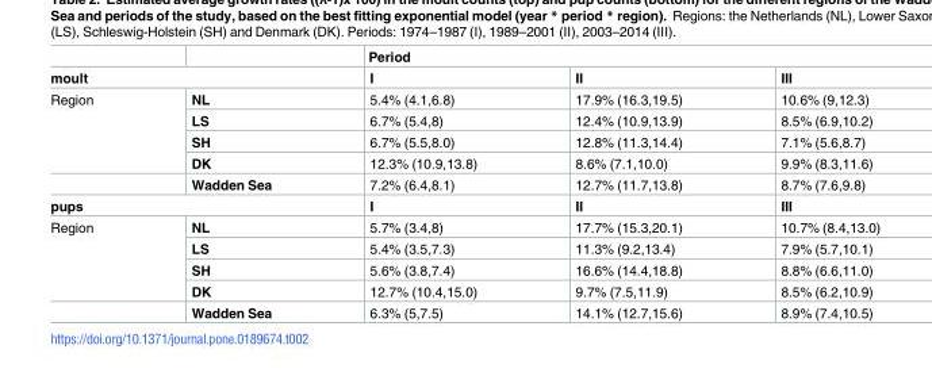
<table><thead><tr><td></td><td></td><td colspan="3">Period</td></tr><tr><td colspan="2">moult</td><td>I</td><td>II</td><td>III</td></tr></thead><tbody><tr><td rowspan="5">Region</td><td>NL</td><td>5.4% (4.1,6.8)</td><td>17.9% (16.3,19.5)</td><td>10.6% (9,12.3)</td></tr><tr><td>LS</td><td>6.7% (5.4,8)</td><td>12.4% (10.9,13.9)</td><td>8.5% (6.9,10.2)</td></tr><tr><td>SH</td><td>6.7% (5.5,8.0)</td><td>12.8% (11.3,14.4)</td><td>7.1% (5.6,8.7)</td></tr><tr><td>DK</td><td>12.3% (10.9,13.8)</td><td>8.6% (7.1,10.0)</td><td>9.9% (8.3,11.6)</td></tr><tr><td>Wadden Sea</td><td>7.2% (6.4,8.1)</td><td>12.7% (11.7,13.8)</td><td>8.7% (7.6,9.8)</td></tr><tr><td colspan="2">pups</td><td>I</td><td>II</td><td>III</td></tr><tr><td rowspan="5">Region</td><td>NL</td><td>5.7% (3.4,8)</td><td>17.7% (15.3,20.1)</td><td>10.7% (8.4,13.0)</td></tr><tr><td>LS</td><td>5.4% (3.5,7.3)</td><td>11.3% (9.2,13.4)</td><td>7.9% (5.7,10.1)</td></tr><tr><td>SH</td><td>5.6% (3.8,7.4)</td><td>16.6% (14.4,18.8)</td><td>8.8% (6.6,11.0)</td></tr><tr><td>DK</td><td>12.7% (10.4,15.0)</td><td>9.7% (7.5,11.9)</td><td>8.5% (6.2,10.9)</td></tr><tr><td>Wadden Sea</td><td>6.3% (5,7.5)</td><td>14.1% (12.7,15.6)</td><td>8.9% (7.4,10.5)</td></tr></tbody></table>